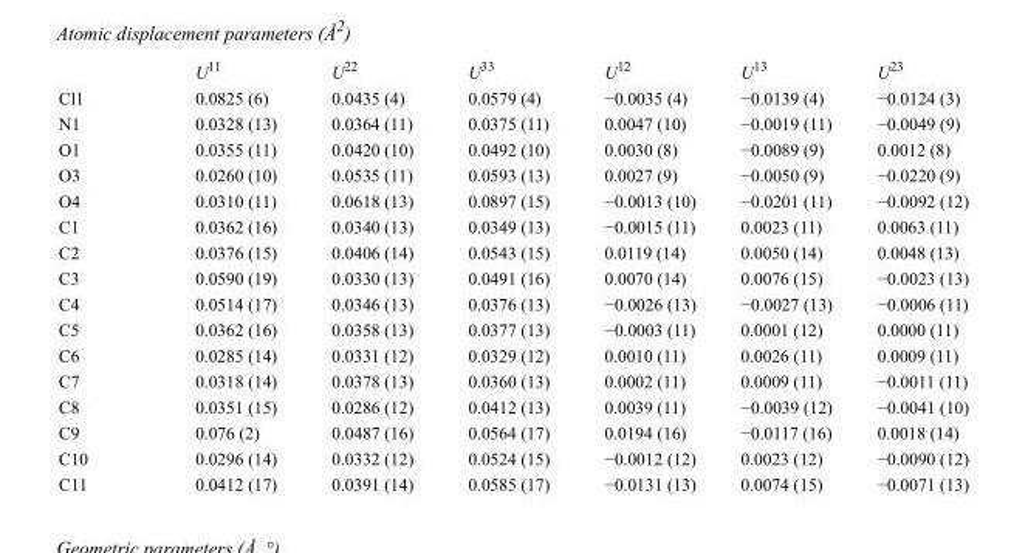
<table><thead><tr><td></td><td>U<sup>11</sup></td><td>U<sup>22</sup></td><td>U<sup>33</sup></td><td>U<sup>12</sup></td><td>U<sup>13</sup></td><td>U<sup>23</sup></td></tr></thead><tbody><tr><td>Cl1</td><td>0.0825 (6)</td><td>0.0435 (4)</td><td>0.0579 (4)</td><td>−0.0035 (4)</td><td>−0.0139 (4)</td><td>−0.0124 (3)</td></tr><tr><td>N1</td><td>0.0328 (13)</td><td>0.0364 (11)</td><td>0.0375 (11)</td><td>0.0047 (10)</td><td>−0.0019 (11)</td><td>−0.0049 (9)</td></tr><tr><td>O1</td><td>0.0355 (11)</td><td>0.0420 (10)</td><td>0.0492 (10)</td><td>0.0030 (8)</td><td>−0.0089 (9)</td><td>0.0012 (8)</td></tr><tr><td>O3</td><td>0.0260 (10)</td><td>0.0535 (11)</td><td>0.0593 (13)</td><td>0.0027 (9)</td><td>−0.0050 (9)</td><td>−0.0220 (9)</td></tr><tr><td>O4</td><td>0.0310 (11)</td><td>0.0618 (13)</td><td>0.0897 (15)</td><td>−0.0013 (10)</td><td>−0.0201 (11)</td><td>−0.0092 (12)</td></tr><tr><td>C1</td><td>0.0362 (16)</td><td>0.0340 (13)</td><td>0.0349 (13)</td><td>−0.0015 (11)</td><td>0.0023 (11)</td><td>0.0063 (11)</td></tr><tr><td>C2</td><td>0.0376 (15)</td><td>0.0406 (14)</td><td>0.0543 (15)</td><td>0.0119 (14)</td><td>0.0050 (14)</td><td>0.0048 (13)</td></tr><tr><td>C3</td><td>0.0590 (19)</td><td>0.0330 (13)</td><td>0.0491 (16)</td><td>0.0070 (14)</td><td>0.0076 (15)</td><td>−0.0023 (13)</td></tr><tr><td>C4</td><td>0.0514 (17)</td><td>0.0346 (13)</td><td>0.0376 (13)</td><td>−0.0026 (13)</td><td>−0.0027 (13)</td><td>−0.0006 (11)</td></tr><tr><td>C5</td><td>0.0362 (16)</td><td>0.0358 (13)</td><td>0.0377 (13)</td><td>−0.0003 (11)</td><td>0.0001 (12)</td><td>0.0000 (11)</td></tr><tr><td>C6</td><td>0.0285 (14)</td><td>0.0331 (12)</td><td>0.0329 (12)</td><td>0.0010 (11)</td><td>0.0026 (11)</td><td>0.0009 (11)</td></tr><tr><td>C7</td><td>0.0318 (14)</td><td>0.0378 (13)</td><td>0.0360 (13)</td><td>0.0002 (11)</td><td>0.0009 (11)</td><td>−0.0011 (11)</td></tr><tr><td>C8</td><td>0.0351 (15)</td><td>0.0286 (12)</td><td>0.0412 (13)</td><td>0.0039 (11)</td><td>−0.0039 (12)</td><td>−0.0041 (10)</td></tr><tr><td>C9</td><td>0.076 (2)</td><td>0.0487 (16)</td><td>0.0564 (17)</td><td>0.0194 (16)</td><td>−0.0117 (16)</td><td>0.0018 (14)</td></tr><tr><td>C10</td><td>0.0296 (14)</td><td>0.0332 (12)</td><td>0.0524 (15)</td><td>−0.0012 (12)</td><td>0.0023 (12)</td><td>−0.0090 (12)</td></tr><tr><td>C11</td><td>0.0412 (17)</td><td>0.0391 (14)</td><td>0.0585 (17)</td><td>−0.0131 (13)</td><td>0.0074 (15)</td><td>−0.0071 (13)</td></tr></tbody></table>